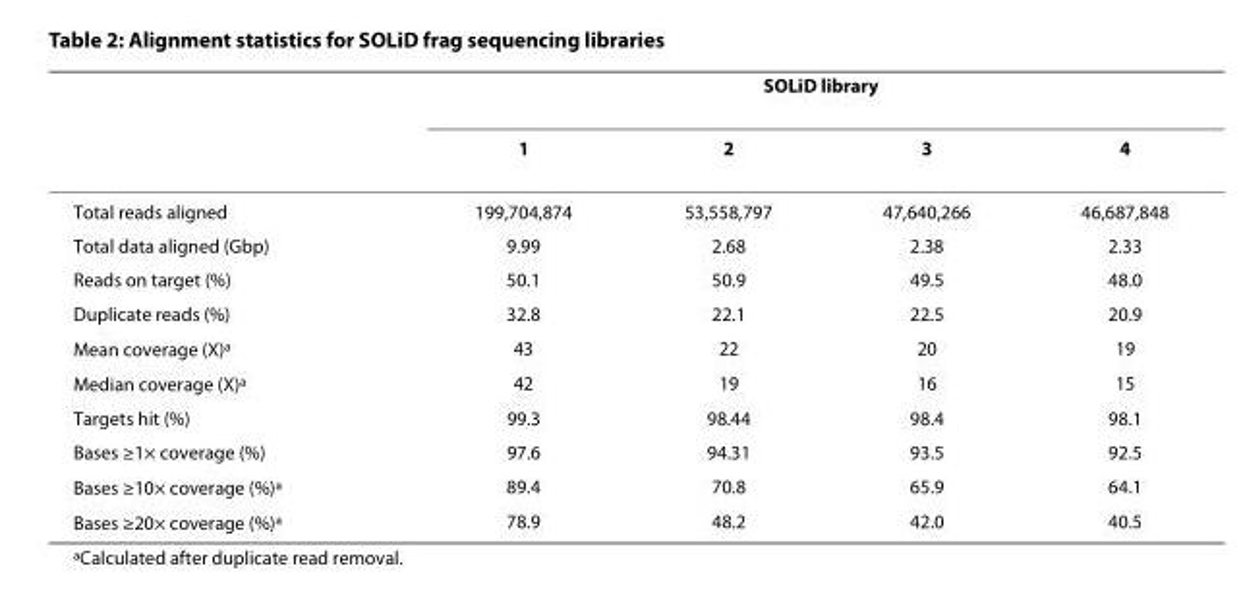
<table><thead><tr><td rowspan="2"></td><td colspan="4">SOLiD library</td></tr><tr><td>1</td><td>2</td><td>3</td><td>4</td></tr></thead><tbody><tr><td>Total reads aligned</td><td>199,704,874</td><td>53,558,797</td><td>47,640,266</td><td>46,687,848</td></tr><tr><td>Total data aligned (Gbp)</td><td>9.99</td><td>2.68</td><td>2.38</td><td>2.33</td></tr><tr><td>Reads on target (%)</td><td>50.1</td><td>50.9</td><td>49.5</td><td>48.0</td></tr><tr><td>Duplicate reads (%)</td><td>32.8</td><td>22.1</td><td>22.5</td><td>20.9</td></tr><tr><td>Mean coverage (X)<sup>a</sup></td><td>43</td><td>22</td><td>20</td><td>19</td></tr><tr><td>Median coverage (X)<sup>a</sup></td><td>42</td><td>19</td><td>16</td><td>15</td></tr><tr><td>Targets hit (%)</td><td>99.3</td><td>98.44</td><td>98.4</td><td>98.1</td></tr><tr><td>Bases ≥1× coverage (%)</td><td>97.6</td><td>94.31</td><td>93.5</td><td>92.5</td></tr><tr><td>Bases ≥10× coverage (%)<sup>a</sup></td><td>89.4</td><td>70.8</td><td>65.9</td><td>64.1</td></tr><tr><td>Bases ≥20× coverage (%)<sup>a</sup></td><td>78.9</td><td>48.2</td><td>42.0</td><td>40.5</td></tr></tbody></table>